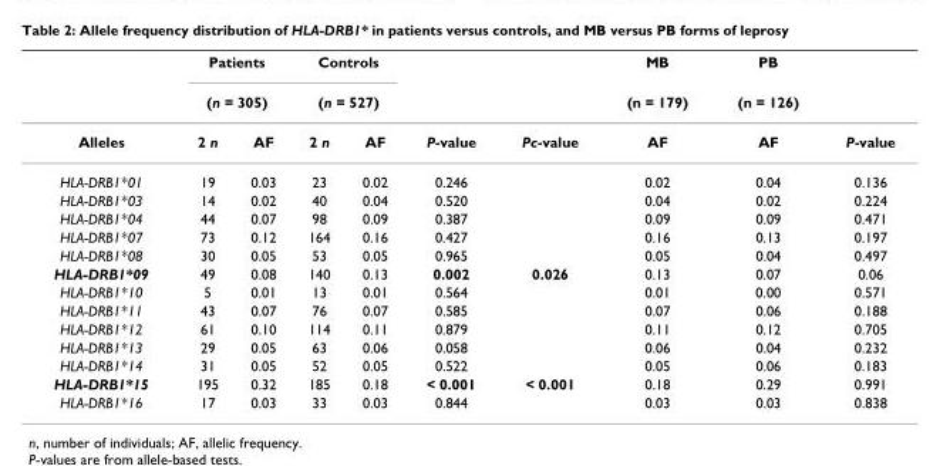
<table><thead><tr><td rowspan="3">Alleles</td><td rowspan="2" colspan="2">Patients (n = 305)</td><td rowspan="2" colspan="2">Controls (n = 527)</td><td rowspan="3">P-value</td><td rowspan="3">Pc-value</td><td rowspan="3">MB (n = 179) AF</td><td rowspan="3">PB (n = 126) AF</td><td rowspan="3">P-value</td></tr><tr></tr><tr><td>2 n</td><td>AF</td><td>2 n</td><td>AF</td></tr></thead><tbody><tr><td>HLA-DRB1*01</td><td>19</td><td>0.03</td><td>23</td><td>0.02</td><td>0.246</td><td></td><td>0.02</td><td>0.04</td><td>0.136</td></tr><tr><td>HLA-DRB1*03</td><td>14</td><td>0.02</td><td>40</td><td>0.04</td><td>0.520</td><td></td><td>0.04</td><td>0.02</td><td>0.224</td></tr><tr><td>HLA-DRB1*04</td><td>44</td><td>0.07</td><td>98</td><td>0.09</td><td>0.387</td><td></td><td>0.09</td><td>0.09</td><td>0.471</td></tr><tr><td>HLA-DRB1*07</td><td>73</td><td>0.12</td><td>164</td><td>0.16</td><td>0.427</td><td></td><td>0.16</td><td>0.13</td><td>0.197</td></tr><tr><td>HLA-DRB1*08</td><td>30</td><td>0.05</td><td>53</td><td>0.05</td><td>0.965</td><td></td><td>0.05</td><td>0.04</td><td>0.497</td></tr><tr><td>HLA-DRB1*09</td><td>49</td><td>0.08</td><td>140</td><td>0.13</td><td>0.002</td><td>0.026</td><td>0.13</td><td>0.07</td><td>0.06</td></tr><tr><td>HLA-DRB1*10</td><td>5</td><td>0.01</td><td>13</td><td>0.01</td><td>0.564</td><td></td><td>0.01</td><td>0.00</td><td>0.571</td></tr><tr><td>HLA-DRB1*11</td><td>43</td><td>0.07</td><td>76</td><td>0.07</td><td>0.585</td><td></td><td>0.07</td><td>0.06</td><td>0.188</td></tr><tr><td>HLA-DRB1*12</td><td>61</td><td>0.10</td><td>114</td><td>0.11</td><td>0.879</td><td></td><td>0.11</td><td>0.12</td><td>0.705</td></tr><tr><td>HLA-DRB1*13</td><td>29</td><td>0.05</td><td>63</td><td>0.06</td><td>0.058</td><td></td><td>0.06</td><td>0.04</td><td>0.232</td></tr><tr><td>HLA-DRB1*14</td><td>31</td><td>0.05</td><td>52</td><td>0.05</td><td>0.522</td><td></td><td>0.05</td><td>0.06</td><td>0.183</td></tr><tr><td>HLA-DRB1*15</td><td>195</td><td>0.32</td><td>185</td><td>0.18</td><td>&lt; 0.001</td><td>&lt; 0.001</td><td>0.18</td><td>0.29</td><td>0.991</td></tr><tr><td>HLA-DRB1*16</td><td>17</td><td>0.03</td><td>33</td><td>0.03</td><td>0.844</td><td></td><td>0.03</td><td>0.03</td><td>0.838</td></tr></tbody></table>